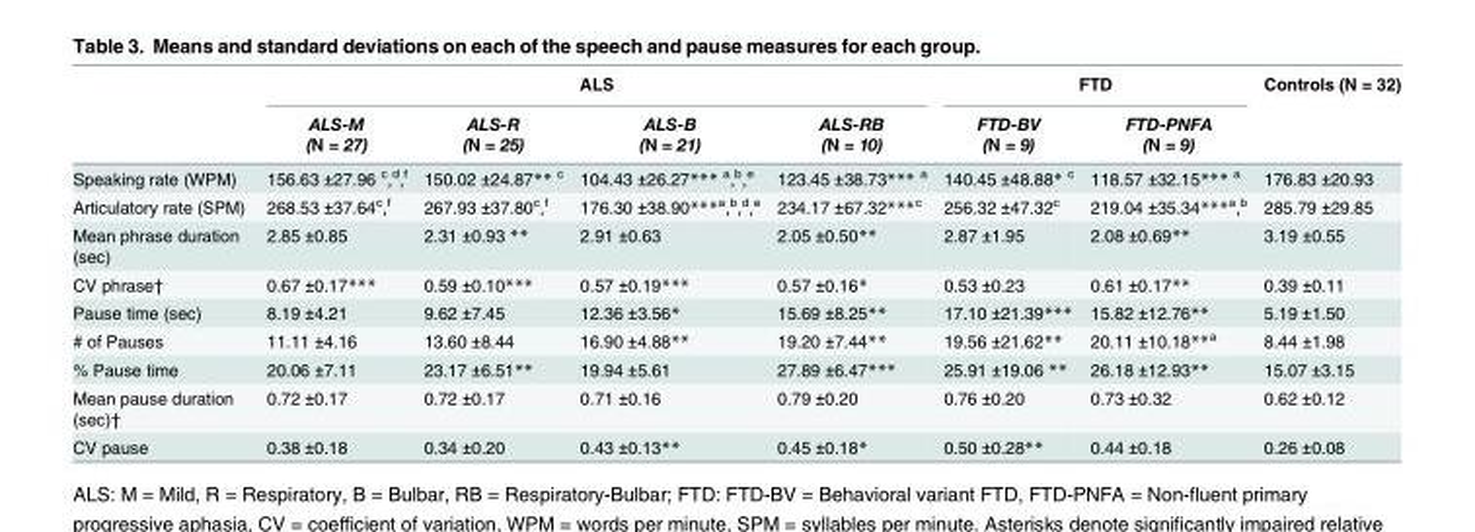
<table><thead><tr><td rowspan="2"></td><td colspan="4">ALS</td><td colspan="2">FTD</td><td rowspan="2">Controls (N = 32)</td></tr><tr><td>ALS-M (N = 27)</td><td>ALS-R (N = 25)</td><td>ALS-B (N = 21)</td><td>ALS-RB (N = 10)</td><td>FTD-BV (N = 9)</td><td>FTD-PNFA (N = 9)</td></tr></thead><tbody><tr><td>Speaking rate (WPM)</td><td>156.63 ±27.96 <sup>c</sup>,<sup>d</sup>,<sup>f</sup></td><td>150.02 ±24.87** <sup>c</sup></td><td>104.43 ±26.27*** <sup>a</sup>,<sup>b</sup>,<sup>e</sup></td><td>123.45 ±38.73*** <sup>a</sup></td><td>140.45 ±48.88* <sup>c</sup></td><td>118.57 ±32.15*** <sup>a</sup></td><td>176.83 ±20.93</td></tr><tr><td>Articulatory rate (SPM)</td><td>268.53 ±37.64<sup>c</sup>,<sup>f</sup></td><td>267.93 ±37.80<sup>c</sup>,<sup>f</sup></td><td>176.30 ±38.90***<sup>a</sup>,<sup>b</sup>,<sup>d</sup>,<sup>e</sup></td><td>234.17 ±67.32***<sup>c</sup></td><td>256.32 ±47.32<sup>c</sup></td><td>219.04 ±35.34***<sup>a</sup>,<sup>b</sup></td><td>285.79 ±29.85</td></tr><tr><td>Mean phrase duration (sec)</td><td>2.85 ±0.85</td><td>2.31 ±0.93 **</td><td>2.91 ±0.63</td><td>2.05 ±0.50**</td><td>2.87 ±1.95</td><td>2.08 ±0.69**</td><td>3.19 ±0.55</td></tr><tr><td>CV phrase†</td><td>0.67 ±0.17***</td><td>0.59 ±0.10***</td><td>0.57 ±0.19***</td><td>0.57 ±0.16*</td><td>0.53 ±0.23</td><td>0.61 ±0.17**</td><td>0.39 ±0.11</td></tr><tr><td>Pause time (sec)</td><td>8.19 ±4.21</td><td>9.62 ±7.45</td><td>12.36 ±3.56*</td><td>15.69 ±8.25**</td><td>17.10 ±21.39***</td><td>15.82 ±12.76**</td><td>5.19 ±1.50</td></tr><tr><td># of Pauses</td><td>11.11 ±4.16</td><td>13.60 ±8.44</td><td>16.90 ±4.88**</td><td>19.20 ±7.44**</td><td>19.56 ±21.62**</td><td>20.11 ±10.18**<sup>a</sup></td><td>8.44 ±1.98</td></tr><tr><td>% Pause time</td><td>20.06 ±7.11</td><td>23.17 ±6.51**</td><td>19.94 ±5.61</td><td>27.89 ±6.47***</td><td>25.91 ±19.06 **</td><td>26.18 ±12.93**</td><td>15.07 ±3.15</td></tr><tr><td>Mean pause duration (sec)†</td><td>0.72 ±0.17</td><td>0.72 ±0.17</td><td>0.71 ±0.16</td><td>0.79 ±0.20</td><td>0.76 ±0.20</td><td>0.73 ±0.32</td><td>0.62 ±0.12</td></tr><tr><td>CV pause</td><td>0.38 ±0.18</td><td>0.34 ±0.20</td><td>0.43 ±0.13**</td><td>0.45 ±0.18*</td><td>0.50 ±0.28**</td><td>0.44 ±0.18</td><td>0.26 ±0.08</td></tr></tbody></table>